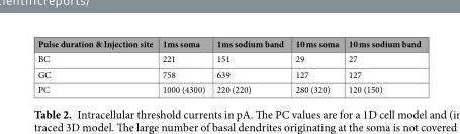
<table><thead><tr><td>Pulse duration &amp; Injection site</td><td>1ms soma</td><td>1ms sodium band</td><td>10 ms soma</td><td>10 ms sodium band</td></tr></thead><tbody><tr><td>BC</td><td>221</td><td>151</td><td>29</td><td>27</td></tr><tr><td>GC</td><td>758</td><td>639</td><td>127</td><td>127</td></tr><tr><td>PC</td><td>1000 (4300)</td><td>220 (220)</td><td>280 (320)</td><td>120 (150)</td></tr></tbody></table>